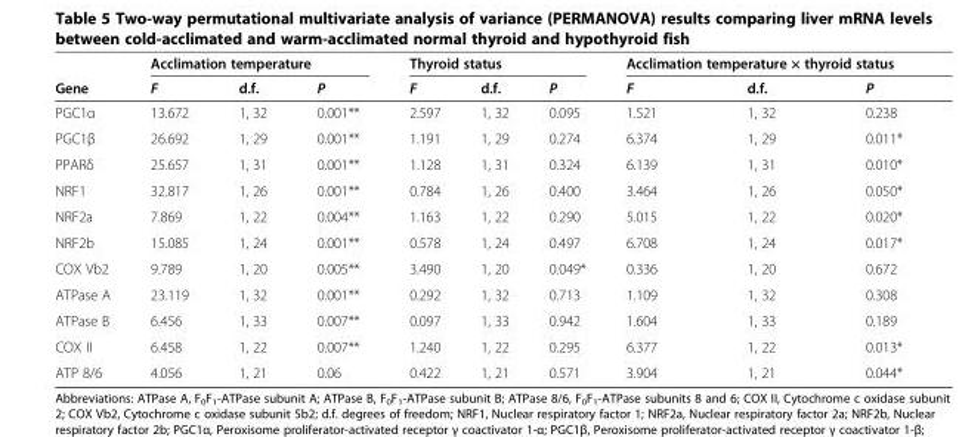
<table><thead><tr><td rowspan="2">Gene</td><td colspan="3">Acclimation temperature</td><td colspan="3">Thyroid status</td><td colspan="3">Acclimation temperature × thyroid status</td></tr><tr><td>F</td><td>d.f.</td><td>P</td><td>F</td><td>d.f.</td><td>P</td><td>F</td><td>d.f.</td><td>P</td></tr></thead><tbody><tr><td>PGC1α</td><td>13.672</td><td>1, 32</td><td>0.001**</td><td>2.597</td><td>1, 32</td><td>0.095</td><td>1.521</td><td>1, 32</td><td>0.238</td></tr><tr><td>PGC1β</td><td>26.692</td><td>1, 29</td><td>0.001**</td><td>1.191</td><td>1, 29</td><td>0.274</td><td>6.374</td><td>1, 29</td><td>0.011*</td></tr><tr><td>PPARδ</td><td>25.657</td><td>1, 31</td><td>0.001**</td><td>1.128</td><td>1, 31</td><td>0.324</td><td>6.139</td><td>1, 31</td><td>0.010*</td></tr><tr><td>NRF1</td><td>32.817</td><td>1, 26</td><td>0.001**</td><td>0.784</td><td>1, 26</td><td>0.400</td><td>3.464</td><td>1, 26</td><td>0.050*</td></tr><tr><td>NRF2a</td><td>7.869</td><td>1, 22</td><td>0.004**</td><td>1.163</td><td>1, 22</td><td>0.290</td><td>5.015</td><td>1, 22</td><td>0.020*</td></tr><tr><td>NRF2b</td><td>15.085</td><td>1, 24</td><td>0.001**</td><td>0.578</td><td>1, 24</td><td>0.497</td><td>6.708</td><td>1, 24</td><td>0.017*</td></tr><tr><td>COX Vb2</td><td>9.789</td><td>1, 20</td><td>0.005**</td><td>3.490</td><td>1, 20</td><td>0.049*</td><td>0.336</td><td>1, 20</td><td>0.672</td></tr><tr><td>ATPase A</td><td>23.119</td><td>1, 32</td><td>0.001**</td><td>0.292</td><td>1, 32</td><td>0.713</td><td>1.109</td><td>1, 32</td><td>0.308</td></tr><tr><td>ATPase B</td><td>6.456</td><td>1, 33</td><td>0.007**</td><td>0.097</td><td>1, 33</td><td>0.942</td><td>1.604</td><td>1, 33</td><td>0.189</td></tr><tr><td>COX II</td><td>6.458</td><td>1, 22</td><td>0.007**</td><td>1.240</td><td>1, 22</td><td>0.295</td><td>6.377</td><td>1, 22</td><td>0.013*</td></tr><tr><td>ATP 8/6</td><td>4.056</td><td>1, 21</td><td>0.06</td><td>0.422</td><td>1, 21</td><td>0.571</td><td>3.904</td><td>1, 21</td><td>0.044*</td></tr></tbody></table>